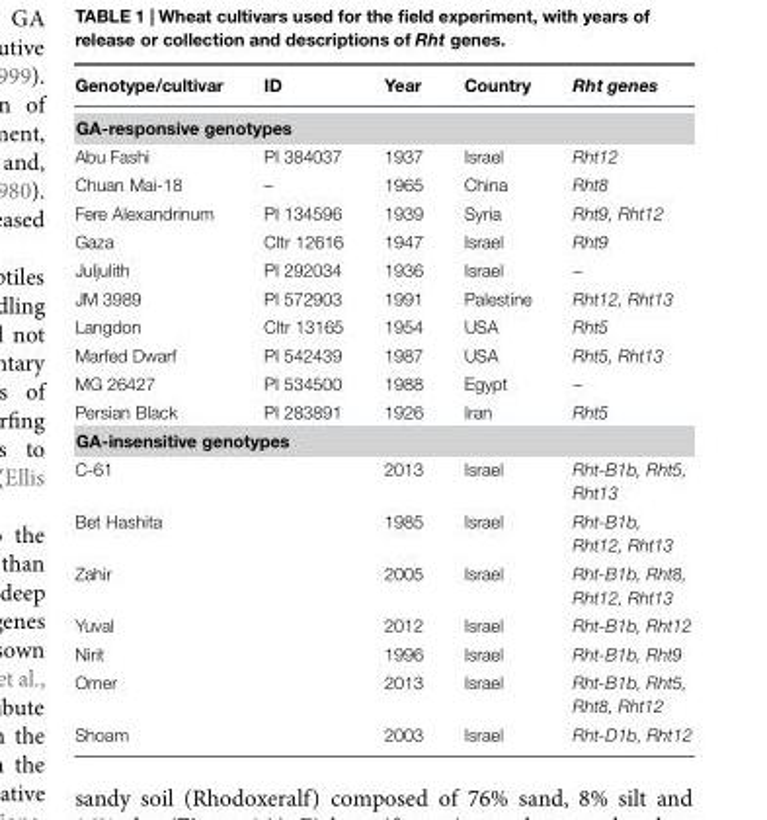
<table><thead><tr><td>Genotype/cultivar</td><td>ID</td><td>Year</td><td>Country</td><td>Rht genes</td></tr></thead><tbody><tr><td colspan="5">GA-responsive genotypes</td></tr><tr><td>Abu Fashi</td><td>PI 384037</td><td>1937</td><td>Israel</td><td>Rht12</td></tr><tr><td>Chuan Mai-18</td><td>–</td><td>1965</td><td>China</td><td>Rht8</td></tr><tr><td>Fere Alexandrinum</td><td>PI 134596</td><td>1939</td><td>Syria</td><td>Rht9, Rht12</td></tr><tr><td>Gaza</td><td>Cltr 12616</td><td>1947</td><td>Israel</td><td>Rht9</td></tr><tr><td>Juljulith</td><td>PI 292034</td><td>1936</td><td>Israel</td><td>–</td></tr><tr><td>JM 3989</td><td>PI 572903</td><td>1991</td><td>Palestine</td><td>Rht12, Rht13</td></tr><tr><td>Langdon</td><td>Cltr 13165</td><td>1954</td><td>USA</td><td>Rht5</td></tr><tr><td>Marfed Dwarf</td><td>PI 542439</td><td>1987</td><td>USA</td><td>Rht5, Rht13</td></tr><tr><td>MG 26427</td><td>PI 534500</td><td>1988</td><td>Egypt</td><td>–</td></tr><tr><td>Persian Black</td><td>PI 283891</td><td>1926</td><td>Iran</td><td>Rht5</td></tr><tr><td colspan="5">GA-insensitive genotypes</td></tr><tr><td>C-61</td><td></td><td>2013</td><td>Israel</td><td>Rht-B1b, Rht5, Rht13</td></tr><tr><td>Bet Hashita</td><td></td><td>1985</td><td>Israel</td><td>Rht-B1b, Rht12, Rht13</td></tr><tr><td>Zahir</td><td></td><td>2005</td><td>Israel</td><td>Rht-B1b, Rht8, Rht12, Rht13</td></tr><tr><td>Yuval</td><td></td><td>2012</td><td>Israel</td><td>Rht-B1b, Rht12</td></tr><tr><td>Nirit</td><td></td><td>1996</td><td>Israel</td><td>Rht-B1b, Rht9</td></tr><tr><td>Omer</td><td></td><td>2013</td><td>Israel</td><td>Rht-B1b, Rht5, Rht8, Rht12</td></tr><tr><td>Shoam</td><td></td><td>2003</td><td>Israel</td><td>Rht-D1b, Rht12</td></tr></tbody></table>